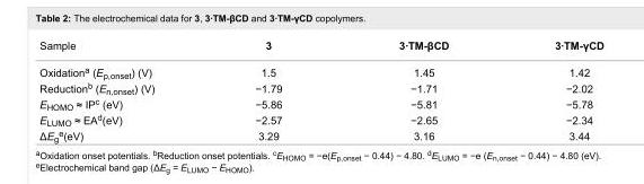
<table><tbody><tr><td>Sample</td><td>3</td><td>3·TM-βCD</td><td>3·TM-γCD</td></tr><tr><td>Oxidation<sup>a</sup> (E<sub>p,onset</sub>) (V)</td><td>1.5</td><td>1.45</td><td>1.42</td></tr><tr><td>Reduction<sup>b</sup> (E<sub>n,onset</sub>) (V)</td><td>−1.79</td><td>−1.71</td><td>−2.02</td></tr><tr><td>E<sub>HOMO</sub> ≈ IP<sup>c</sup> (eV)</td><td>−5.86</td><td>−5.81</td><td>−5.78</td></tr><tr><td>E<sub>LUMO</sub> ≈ EA<sup>d</sup>(eV)</td><td>−2.57</td><td>−2.65</td><td>−2.34</td></tr><tr><td>ΔE<sub>g</sub><sup>e</sup>(eV)</td><td>3.29</td><td>3.16</td><td>3.44</td></tr></tbody></table>